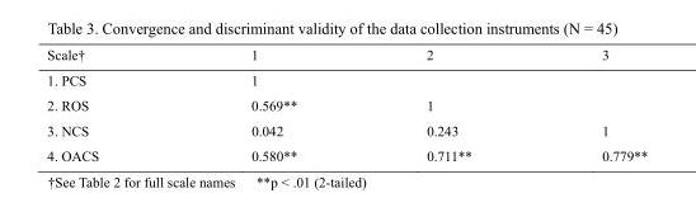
<table><thead><tr><td>Scale†</td><td>1</td><td>2</td><td>3</td></tr></thead><tbody><tr><td>1. PCS</td><td>1</td><td></td><td></td></tr><tr><td>2. ROS</td><td>0.569**</td><td>1</td><td></td></tr><tr><td>3. NCS</td><td>0.042</td><td>0.243</td><td>1</td></tr><tr><td>4. OACS</td><td>0.580**</td><td>0.711**</td><td>0.779**</td></tr></tbody></table>